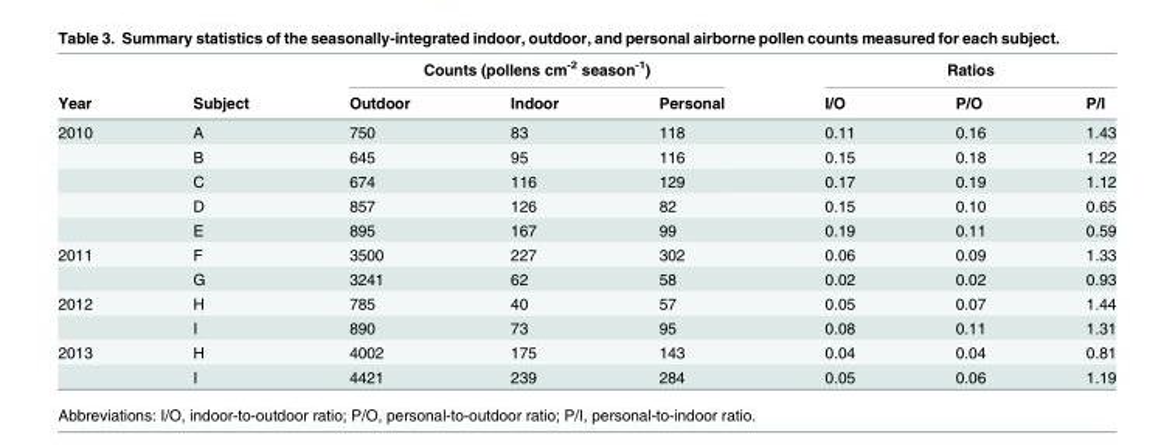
<table><thead><tr><td rowspan="2">Year</td><td rowspan="2">Subject</td><td colspan="3">Counts (pollens cm<sup>-2</sup> season<sup>-1</sup>)</td><td colspan="3">Ratios</td></tr><tr><td>Outdoor</td><td>Indoor</td><td>Personal</td><td>I/O</td><td>P/O</td><td>P/I</td></tr></thead><tbody><tr><td rowspan="5">2010</td><td>A</td><td>750</td><td>83</td><td>118</td><td>0.11</td><td>0.16</td><td>1.43</td></tr><tr><td>B</td><td>645</td><td>95</td><td>116</td><td>0.15</td><td>0.18</td><td>1.22</td></tr><tr><td>C</td><td>674</td><td>116</td><td>129</td><td>0.17</td><td>0.19</td><td>1.12</td></tr><tr><td>D</td><td>857</td><td>126</td><td>82</td><td>0.15</td><td>0.10</td><td>0.65</td></tr><tr><td>E</td><td>895</td><td>167</td><td>99</td><td>0.19</td><td>0.11</td><td>0.59</td></tr><tr><td rowspan="2">2011</td><td>F</td><td>3500</td><td>227</td><td>302</td><td>0.06</td><td>0.09</td><td>1.33</td></tr><tr><td>G</td><td>3241</td><td>62</td><td>58</td><td>0.02</td><td>0.02</td><td>0.93</td></tr><tr><td rowspan="2">2012</td><td>H</td><td>785</td><td>40</td><td>57</td><td>0.05</td><td>0.07</td><td>1.44</td></tr><tr><td>I</td><td>890</td><td>73</td><td>95</td><td>0.08</td><td>0.11</td><td>1.31</td></tr><tr><td rowspan="2">2013</td><td>H</td><td>4002</td><td>175</td><td>143</td><td>0.04</td><td>0.04</td><td>0.81</td></tr><tr><td>I</td><td>4421</td><td>239</td><td>284</td><td>0.05</td><td>0.06</td><td>1.19</td></tr></tbody></table>